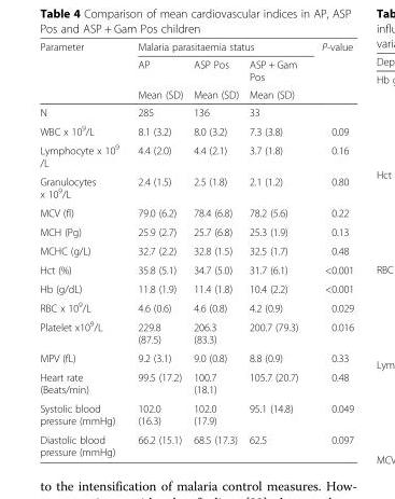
<table><thead><tr><td rowspan="3">Parameter</td><td colspan="3">Malaria parasitaemia status</td><td rowspan="3">P-value</td></tr><tr><td rowspan="2">AP Mean (SD)</td><td rowspan="2">ASP Pos Mean (SD)</td><td rowspan="2">ASP + Gam Pos Mean (SD)</td></tr><tr></tr></thead><tbody><tr><td>N</td><td>285</td><td>136</td><td>33</td><td></td></tr><tr><td>WBC x 10<sup>9</sup>/L</td><td>8.1 (3.2)</td><td>8.0 (3.2)</td><td>7.3 (3.8)</td><td>0.09</td></tr><tr><td>Lymphocyte x 10<sup>9</sup> /L</td><td>4.4 (2.0)</td><td>4.4 (2.1)</td><td>3.7 (1.8)</td><td>0.16</td></tr><tr><td>Granulocytes x 10<sup>9</sup>/L</td><td>2.4 (1.5)</td><td>2.5 (1.8)</td><td>2.1 (1.2)</td><td>0.80</td></tr><tr><td>MCV (fl)</td><td>79.0 (6.2)</td><td>78.4 (6.8)</td><td>78.2 (5.6)</td><td>0.22</td></tr><tr><td>MCH (Pg)</td><td>25.9 (2.7)</td><td>25.7 (6.8)</td><td>25.3 (1.9)</td><td>0.13</td></tr><tr><td>MCHC (g/L)</td><td>32.7 (2.2)</td><td>32.8 (1.5)</td><td>32.5 (1.7)</td><td>0.48</td></tr><tr><td>Hct (%)</td><td>35.8 (5.1)</td><td>34.7 (5.0)</td><td>31.7 (6.1)</td><td>&lt;0.001</td></tr><tr><td>Hb (g/dL)</td><td>11.8 (1.9)</td><td>11.4 (1.8)</td><td>10.4 (2.2)</td><td>&lt;0.001</td></tr><tr><td>RBC x 10<sup>9</sup>/L</td><td>4.6 (0.6)</td><td>4.6 (0.8)</td><td>4.2 (0.9)</td><td>0.029</td></tr><tr><td>Platelet x10<sup>9</sup>/L</td><td>229.8 (87.5)</td><td>206.3 (83.3)</td><td>200.7 (79.3)</td><td>0.016</td></tr><tr><td>MPV (fL)</td><td>9.2 (3.1)</td><td>9.0 (0.8)</td><td>8.8 (0.9)</td><td>0.33</td></tr><tr><td>Heart rate (Beats/min)</td><td>99.5 (17.2)</td><td>100.7 (18.1)</td><td>105.7 (20.7)</td><td>0.48</td></tr><tr><td>Systolic blood pressure (mmHg)</td><td>102.0 (16.3)</td><td>102.0 (17.9)</td><td>95.1 (14.8)</td><td>0.049</td></tr><tr><td>Diastolic blood pressure (mmHg)</td><td>66.2 (15.1)</td><td>68.5 (17.3)</td><td>62.5</td><td>0.097</td></tr></tbody></table>